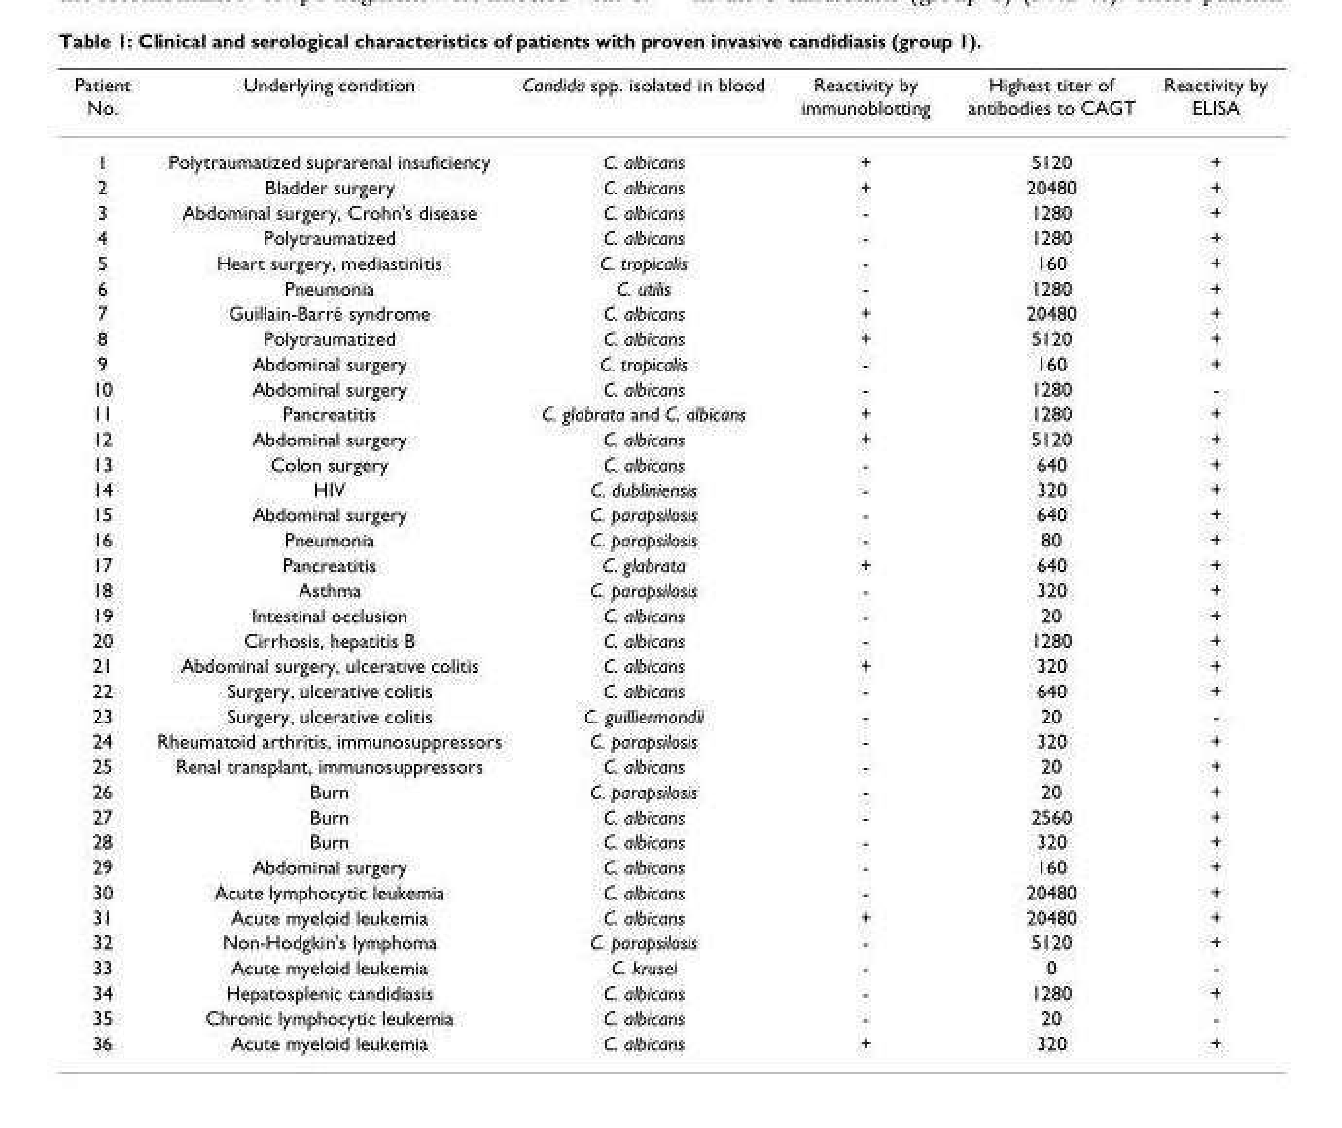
<table><thead><tr><td>Patient No.</td><td>Underlying condition</td><td>Candida spp. isolated in blood</td><td>Reactivity by immunoblotting</td><td>Highest titer of antibodies to CAGT</td><td>Reactivity by ELISA</td></tr></thead><tbody><tr><td>1</td><td>Polytraumatized suprarenal insuficiency</td><td>C. albicans</td><td>+</td><td>5120</td><td>+</td></tr><tr><td>2</td><td>Bladder surgery</td><td>C. albicans</td><td>+</td><td>20480</td><td>+</td></tr><tr><td>3</td><td>Abdominal surgery, Crohn&#x27;s disease</td><td>C. albicans</td><td>-</td><td>1280</td><td>+</td></tr><tr><td>4</td><td>Polytraumatized</td><td>C. albicans</td><td>-</td><td>1280</td><td>+</td></tr><tr><td>5</td><td>Heart surgery, mediastinitis</td><td>C. tropicalis</td><td>-</td><td>160</td><td>+</td></tr><tr><td>6</td><td>Pneumonia</td><td>C. utilis</td><td>-</td><td>1280</td><td>+</td></tr><tr><td>7</td><td>Guillain-Barré syndrome</td><td>C. albicans</td><td>+</td><td>20480</td><td>+</td></tr><tr><td>8</td><td>Polytraumatized</td><td>C. albicans</td><td>+</td><td>5120</td><td>+</td></tr><tr><td>9</td><td>Abdominal surgery</td><td>C. tropicalis</td><td>-</td><td>160</td><td>+</td></tr><tr><td>10</td><td>Abdominal surgery</td><td>C. albicans</td><td>-</td><td>1280</td><td>-</td></tr><tr><td>11</td><td>Pancreatitis</td><td>C. glabrata and C. albicans</td><td>+</td><td>1280</td><td>+</td></tr><tr><td>12</td><td>Abdominal surgery</td><td>C. albicans</td><td>+</td><td>5120</td><td>+</td></tr><tr><td>13</td><td>Colon surgery</td><td>C. albicans</td><td>-</td><td>640</td><td>+</td></tr><tr><td>14</td><td>HIV</td><td>C. dubliniensis</td><td>-</td><td>320</td><td>+</td></tr><tr><td>15</td><td>Abdominal surgery</td><td>C. parapsilosis</td><td>-</td><td>640</td><td>+</td></tr><tr><td>16</td><td>Pneumonia</td><td>C. parapsilosis</td><td>-</td><td>80</td><td>+</td></tr><tr><td>17</td><td>Pancreatitis</td><td>C. glabrata</td><td>+</td><td>640</td><td>+</td></tr><tr><td>18</td><td>Asthma</td><td>C. parapsilosis</td><td>-</td><td>320</td><td>+</td></tr><tr><td>19</td><td>Intestinal occlusion</td><td>C. albicans</td><td>-</td><td>20</td><td>+</td></tr><tr><td>20</td><td>Cirrhosis, hepatitis B</td><td>C. albicans</td><td>-</td><td>1280</td><td>+</td></tr><tr><td>21</td><td>Abdominal surgery, ulcerative colitis</td><td>C. albicans</td><td>+</td><td>320</td><td>+</td></tr><tr><td>22</td><td>Surgery, ulcerative colitis</td><td>C. albicans</td><td>-</td><td>640</td><td>+</td></tr><tr><td>23</td><td>Surgery, ulcerative colitis</td><td>C. guilliermondii</td><td>-</td><td>20</td><td>-</td></tr><tr><td>24</td><td>Rheumatoid arthritis, immunosuppressors</td><td>C. parapsilosis</td><td>-</td><td>320</td><td>+</td></tr><tr><td>25</td><td>Renal transplant, immunosuppressors</td><td>C. albicans</td><td>-</td><td>20</td><td>+</td></tr><tr><td>26</td><td>Burn</td><td>C. parapsilosis</td><td>-</td><td>20</td><td>+</td></tr><tr><td>27</td><td>Burn</td><td>C. albicans</td><td>-</td><td>2560</td><td>+</td></tr><tr><td>28</td><td>Burn</td><td>C. albicans</td><td>-</td><td>320</td><td>+</td></tr><tr><td>29</td><td>Abdominal surgery</td><td>C. albicans</td><td>-</td><td>160</td><td>+</td></tr><tr><td>30</td><td>Acute lymphocytic leukemia</td><td>C. albicans</td><td>-</td><td>20480</td><td>+</td></tr><tr><td>31</td><td>Acute myeloid leukemia</td><td>C. albicans</td><td>+</td><td>20480</td><td>+</td></tr><tr><td>32</td><td>Non-Hodgkin&#x27;s lymphoma</td><td>C. parapsilosis</td><td>-</td><td>5120</td><td>+</td></tr><tr><td>33</td><td>Acute myeloid leukemia</td><td>C. krusei</td><td>-</td><td>0</td><td>-</td></tr><tr><td>34</td><td>Hepatosplenic candidiasis</td><td>C. albicans</td><td>-</td><td>1280</td><td>+</td></tr><tr><td>35</td><td>Chronic lymphocytic leukemia</td><td>C. albicans</td><td>-</td><td>20</td><td>-</td></tr><tr><td>36</td><td>Acute myeloid leukemia</td><td>C. albicans</td><td>+</td><td>320</td><td>+</td></tr></tbody></table>